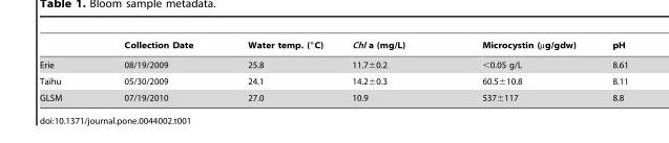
<table><thead><tr><td></td><td>Collection Date</td><td>Water temp. (°C)</td><td>Chl a (mg/L)</td><td>Microcystin (µg/gdw)</td><td>pH</td></tr></thead><tbody><tr><td>Erie</td><td>08/19/2009</td><td>25.8</td><td>11.7±0.2</td><td>&lt;0.05 g/L</td><td>8.61</td></tr><tr><td>Taihu</td><td>05/30/2009</td><td>24.1</td><td>14.2±0.3</td><td>60.5±10.8</td><td>8.11</td></tr><tr><td>GLSM</td><td>07/19/2010</td><td>27.0</td><td>10.9</td><td>537±117</td><td>8.8</td></tr></tbody></table>